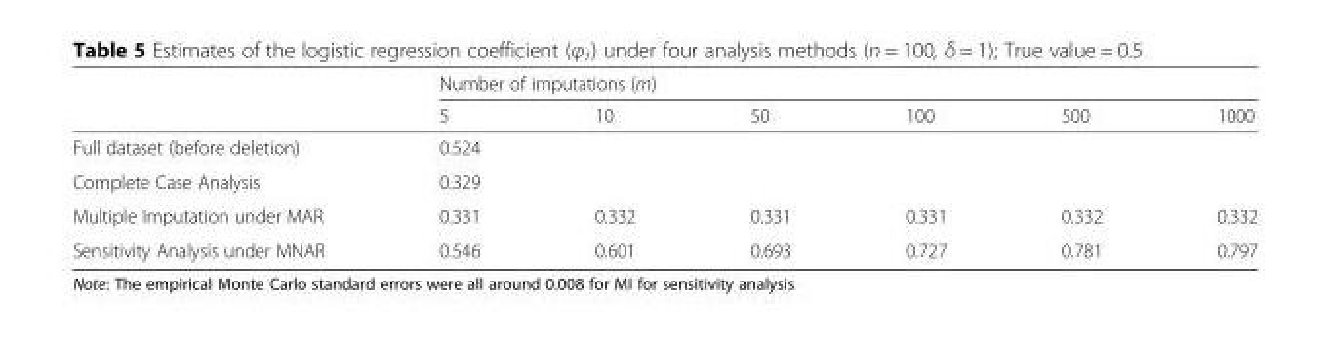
<table><thead><tr><td rowspan="2"></td><td colspan="6">Number of imputations (m)</td></tr><tr><td>5</td><td>10</td><td>50</td><td>100</td><td>500</td><td>1000</td></tr></thead><tbody><tr><td>Full dataset (before deletion)</td><td>0.524</td><td></td><td></td><td></td><td></td><td></td></tr><tr><td>Complete Case Analysis</td><td>0.329</td><td></td><td></td><td></td><td></td><td></td></tr><tr><td>Multiple Imputation under MAR</td><td>0.331</td><td>0.332</td><td>0.331</td><td>0.331</td><td>0.332</td><td>0.332</td></tr><tr><td>Sensitivity Analysis under MNAR</td><td>0.546</td><td>0.601</td><td>0.693</td><td>0.727</td><td>0.781</td><td>0.797</td></tr></tbody></table>